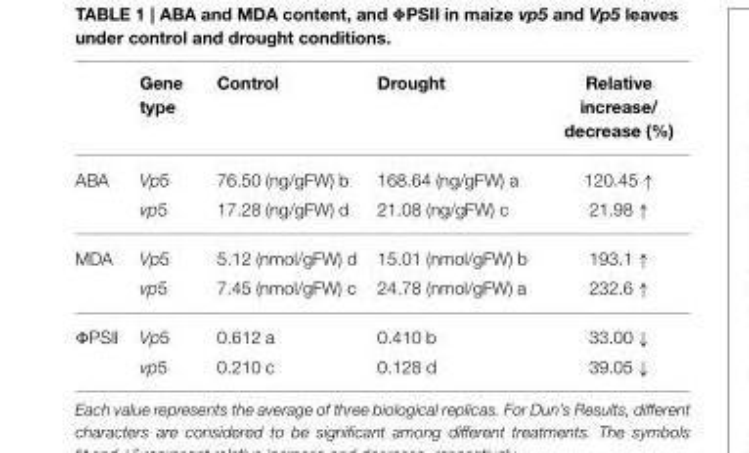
<table><thead><tr><td></td><td>Gene type</td><td>Control</td><td>Drought</td><td>Relative increase/ decrease (%)</td></tr></thead><tbody><tr><td rowspan="2">ABA</td><td>Vp5</td><td>76.50 (ng/gFW) b</td><td>168.64 (ng/gFW) a</td><td>120.45 ↑</td></tr><tr><td>vp5</td><td>17.28 (ng/gFW) d</td><td>21.08 (ng/gFW) c</td><td>21.98 ↑</td></tr><tr><td rowspan="2">MDA</td><td>Vp5</td><td>5.12 (nmol/gFW) d</td><td>15.01 (nmol/gFW) b</td><td>193.1 ↑</td></tr><tr><td>vp5</td><td>7.45 (nmol/gFW) c</td><td>24.78 (nmol/gFW) a</td><td>232.6 ↑</td></tr><tr><td rowspan="2">ΦPSII</td><td>Vp5</td><td>0.612 a</td><td>0.410 b</td><td>33.00 ↓</td></tr><tr><td>vp5</td><td>0.210 c</td><td>0.128 d</td><td>39.05 ↓</td></tr></tbody></table>